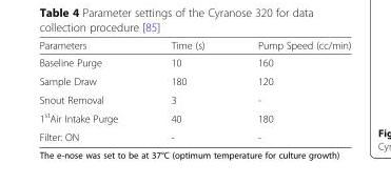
<table><thead><tr><td>Parameters</td><td>Time (s)</td><td>Pump Speed (cc/min)</td></tr></thead><tbody><tr><td>Baseline Purge</td><td>10</td><td>160</td></tr><tr><td>Sample Draw</td><td>180</td><td>120</td></tr><tr><td>Snout Removal</td><td>3</td><td>-</td></tr><tr><td>1<sup>st</sup>Air Intake Purge</td><td>40</td><td>180</td></tr><tr><td>Filter: ON</td><td>-</td><td>-</td></tr></tbody></table>